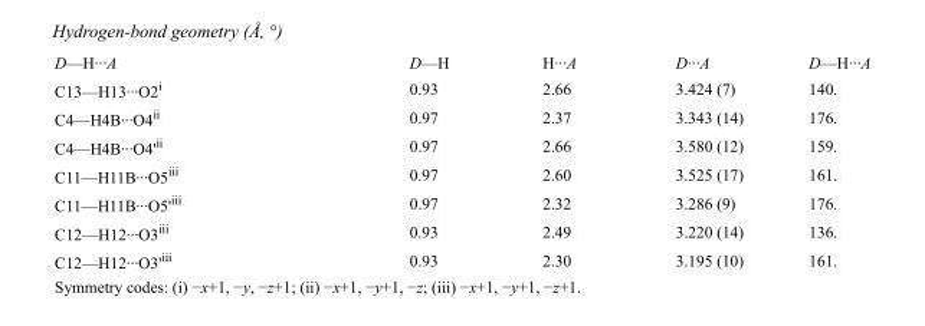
<table><tbody><tr><td>D—H···A</td><td>D—H</td><td>H···A</td><td>D···A</td><td>D—H···A</td></tr><tr><td>C13—H13···O2<sup>i</sup></td><td>0.93</td><td>2.66</td><td>3.424 (7)</td><td>140.</td></tr><tr><td>C4—H4B···O4<sup>ii</sup></td><td>0.97</td><td>2.37</td><td>3.343 (14)</td><td>176.</td></tr><tr><td>C4—H4B···O4&#x27;<sup>ii</sup></td><td>0.97</td><td>2.66</td><td>3.580 (12)</td><td>159.</td></tr><tr><td>C11—H11B···O5<sup>iii</sup></td><td>0.97</td><td>2.60</td><td>3.525 (17)</td><td>161.</td></tr><tr><td>C11—H11B···O5&#x27;<sup>iii</sup></td><td>0.97</td><td>2.32</td><td>3.286 (9)</td><td>176.</td></tr><tr><td>C12—H12···O3<sup>iii</sup></td><td>0.93</td><td>2.49</td><td>3.220 (14)</td><td>136.</td></tr><tr><td>C12—H12···O3&#x27;<sup>iii</sup></td><td>0.93</td><td>2.30</td><td>3.195 (10)</td><td>161.</td></tr></tbody></table>